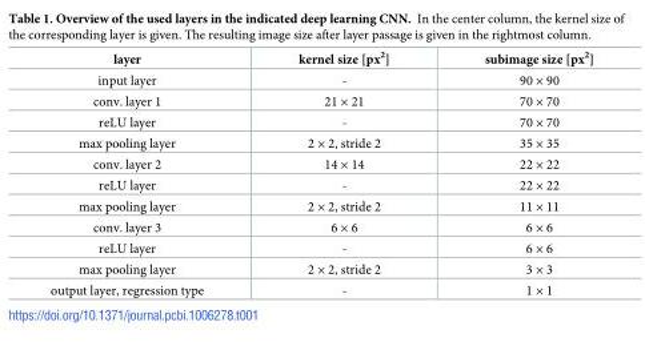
<table><thead><tr><td>layer</td><td>kernel size [px<sup>2</sup>]</td><td>subimage size [px<sup>2</sup>]</td></tr></thead><tbody><tr><td>input layer</td><td>-</td><td>90 × 90</td></tr><tr><td>conv. layer 1</td><td>21 × 21</td><td>70 × 70</td></tr><tr><td>reLU layer</td><td>-</td><td>70 × 70</td></tr><tr><td>max pooling layer</td><td>2 × 2, stride 2</td><td>35 × 35</td></tr><tr><td>conv. layer 2</td><td>14 × 14</td><td>22 × 22</td></tr><tr><td>reLU layer</td><td>-</td><td>22 × 22</td></tr><tr><td>max pooling layer</td><td>2 × 2, stride 2</td><td>11 × 11</td></tr><tr><td>conv. layer 3</td><td>6 × 6</td><td>6 × 6</td></tr><tr><td>reLU layer</td><td>-</td><td>6 × 6</td></tr><tr><td>max pooling layer</td><td>2 × 2, stride 2</td><td>3 × 3</td></tr><tr><td>output layer, regression type</td><td>-</td><td>1 × 1</td></tr></tbody></table>